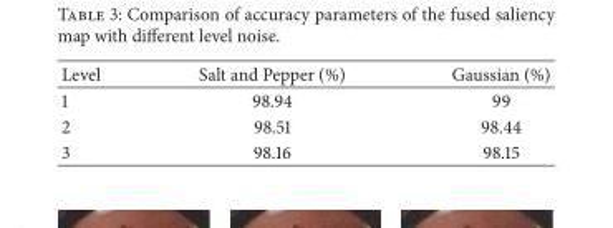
<table><thead><tr><td>Level</td><td>Salt and Pepper (%)</td><td>Gaussian (%)</td></tr></thead><tbody><tr><td>1</td><td>98.94</td><td>99</td></tr><tr><td>2</td><td>98.51</td><td>98.44</td></tr><tr><td>3</td><td>98.16</td><td>98.15</td></tr></tbody></table>